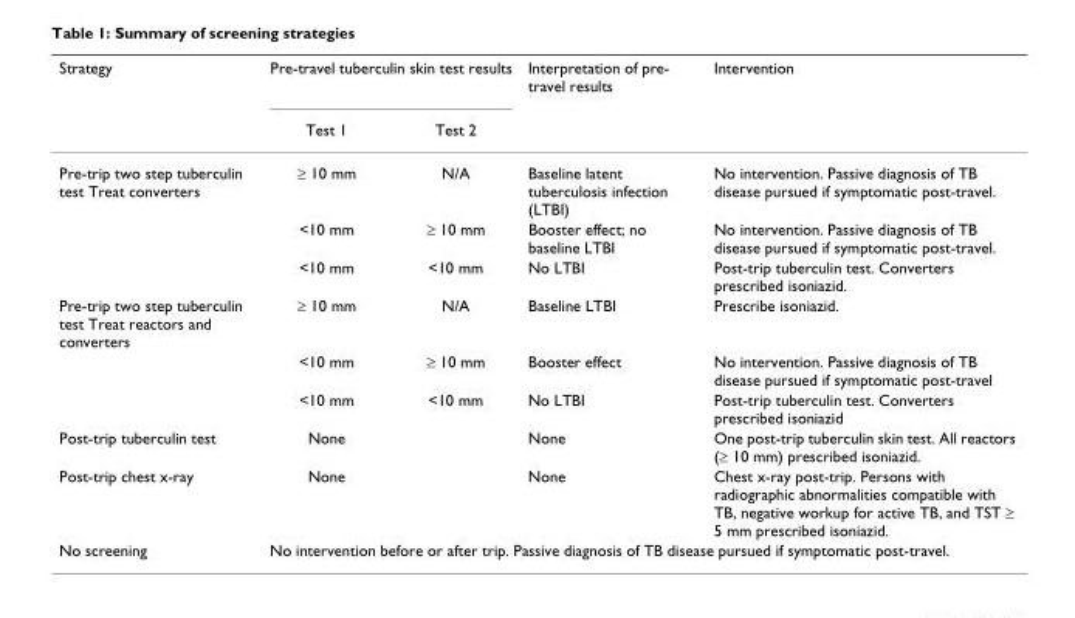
<table><thead><tr><td rowspan="2">Strategy</td><td colspan="2">Pre-travel tuberculin skin test results</td><td rowspan="2">Interpretation of pre- travel results</td><td rowspan="2">Intervention</td></tr><tr><td>Test 1</td><td>Test 2</td></tr></thead><tbody><tr><td rowspan="3">Pre-trip two step tuberculin test Treat converters</td><td>≥ 10 mm</td><td>N/A</td><td>Baseline latent tuberculosis infection (LTBI)</td><td>No intervention. Passive diagnosis of TB disease pursued if symptomatic post-travel.</td></tr><tr><td>&lt;10 mm</td><td>≥ 10 mm</td><td>Booster effect; no baseline LTBI</td><td>No intervention. Passive diagnosis of TB disease pursued if symptomatic post-travel.</td></tr><tr><td>&lt;10 mm</td><td>&lt;10 mm</td><td>No LTBI</td><td>Post-trip tuberculin test. Converters prescribed isoniazid.</td></tr><tr><td rowspan="3">Pre-trip two step tuberculin test Treat reactors and converters</td><td>≥ 10 mm</td><td>N/A</td><td>Baseline LTBI</td><td>Prescribe isoniazid.</td></tr><tr><td>&lt;10 mm</td><td>≥ 10 mm</td><td>Booster effect</td><td>No intervention. Passive diagnosis of TB disease pursued if symptomatic post-travel</td></tr><tr><td>&lt;10 mm</td><td>&lt;10 mm</td><td>No LTBI</td><td>Post-trip tuberculin test. Converters prescribed isoniazid</td></tr><tr><td>Post-trip tuberculin test</td><td>None</td><td></td><td>None</td><td>One post-trip tuberculin skin test. All reactors (≥ 10 mm) prescribed isoniazid.</td></tr><tr><td>Post-trip chest x-ray</td><td>None</td><td></td><td>None</td><td>Chest x-ray post-trip. Persons with radiographic abnormalities compatible with TB, negative workup for active TB, and TST ≥ 5 mm prescribed isoniazid.</td></tr><tr><td>No screening</td><td colspan="4">No intervention before or after trip. Passive diagnosis of TB disease pursued if symptomatic post-travel.</td></tr></tbody></table>